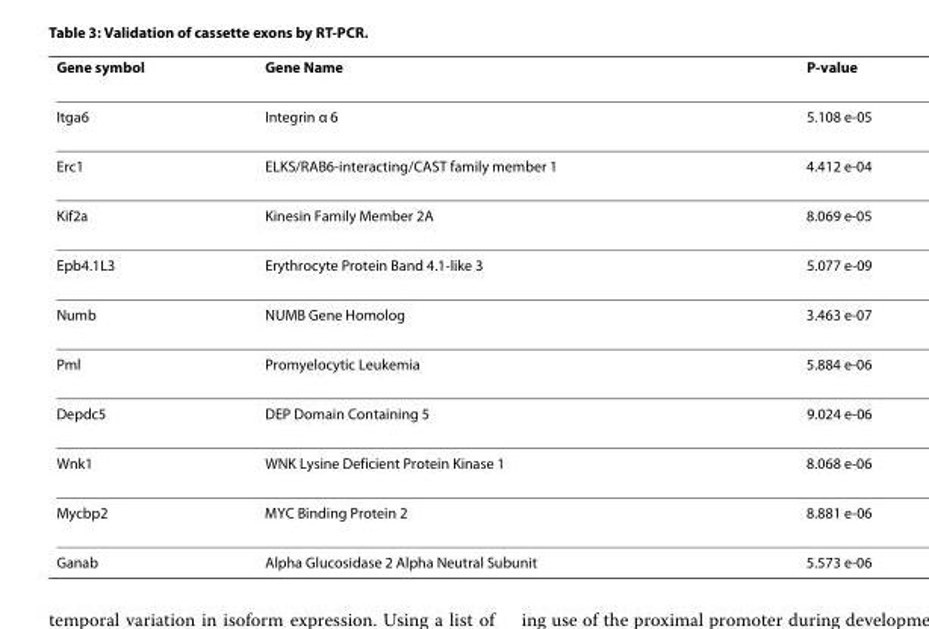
<table><thead><tr><td>Gene symbol</td><td>Gene Name</td><td>P-value</td></tr></thead><tbody><tr><td>Itga6</td><td>Integrin α 6</td><td>5.108 e-05</td></tr><tr><td>Erc1</td><td>ELKS/RAB6-interacting/CAST family member 1</td><td>4.412 e-04</td></tr><tr><td>Kif2a</td><td>Kinesin Family Member 2A</td><td>8.069 e-05</td></tr><tr><td>Epb4.1L3</td><td>Erythrocyte Protein Band 4.1-like 3</td><td>5.077 e-09</td></tr><tr><td>Numb</td><td>NUMB Gene Homolog</td><td>3.463 e-07</td></tr><tr><td>Pml</td><td>Promyelocytic Leukemia</td><td>5.884 e-06</td></tr><tr><td>Depdc5</td><td>DEP Domain Containing 5</td><td>9.024 e-06</td></tr><tr><td>Wnk1</td><td>WNK Lysine Deficient Protein Kinase 1</td><td>8.068 e-06</td></tr><tr><td>Mycbp2</td><td>MYC Binding Protein 2</td><td>8.881 e-06</td></tr><tr><td>Ganab</td><td>Alpha Glucosidase 2 Alpha Neutral Subunit</td><td>5.573 e-06</td></tr></tbody></table>